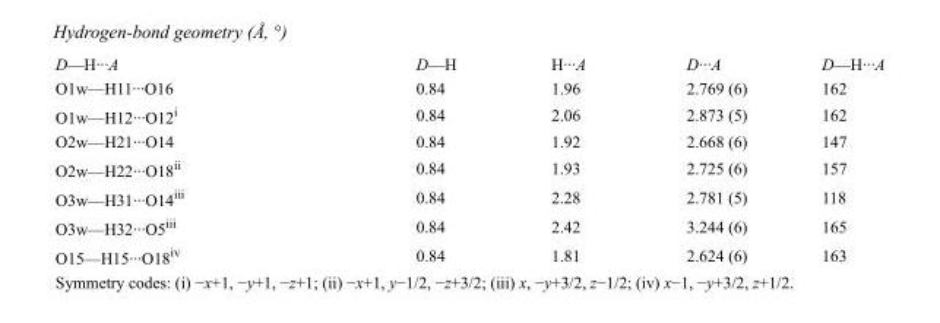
<table><tbody><tr><td>D—H···A</td><td>D—H</td><td>H···A</td><td>D···A</td><td>D—H···A</td></tr><tr><td>O1w—H11···O16</td><td>0.84</td><td>1.96</td><td>2.769 (6)</td><td>162</td></tr><tr><td>O1w—H12···O12<sup>i</sup></td><td>0.84</td><td>2.06</td><td>2.873 (5)</td><td>162</td></tr><tr><td>O2w—H21···O14</td><td>0.84</td><td>1.92</td><td>2.668 (6)</td><td>147</td></tr><tr><td>O2w—H22···O18<sup>ii</sup></td><td>0.84</td><td>1.93</td><td>2.725 (6)</td><td>157</td></tr><tr><td>O3w—H31···O14<sup>iii</sup></td><td>0.84</td><td>2.28</td><td>2.781 (5)</td><td>118</td></tr><tr><td>O3w—H32···O5<sup>iii</sup></td><td>0.84</td><td>2.42</td><td>3.244 (6)</td><td>165</td></tr><tr><td>O15—H15···O18<sup>iv</sup></td><td>0.84</td><td>1.81</td><td>2.624 (6)</td><td>163</td></tr></tbody></table>